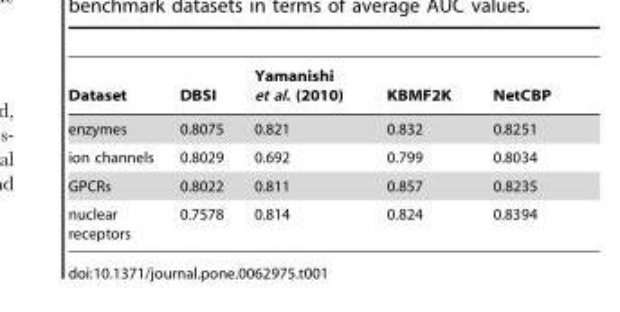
<table><thead><tr><td>Dataset</td><td>DBSI</td><td>Yamanishi et al. (2010)</td><td>KBMF2K</td><td>NetCBP</td></tr></thead><tbody><tr><td>enzymes</td><td>0.8075</td><td>0.821</td><td>0.832</td><td>0.8251</td></tr><tr><td>ion channels</td><td>0.8029</td><td>0.692</td><td>0.799</td><td>0.8034</td></tr><tr><td>GPCRs</td><td>0.8022</td><td>0.811</td><td>0.857</td><td>0.8235</td></tr><tr><td>nuclear receptors</td><td>0.7578</td><td>0.814</td><td>0.824</td><td>0.8394</td></tr></tbody></table>